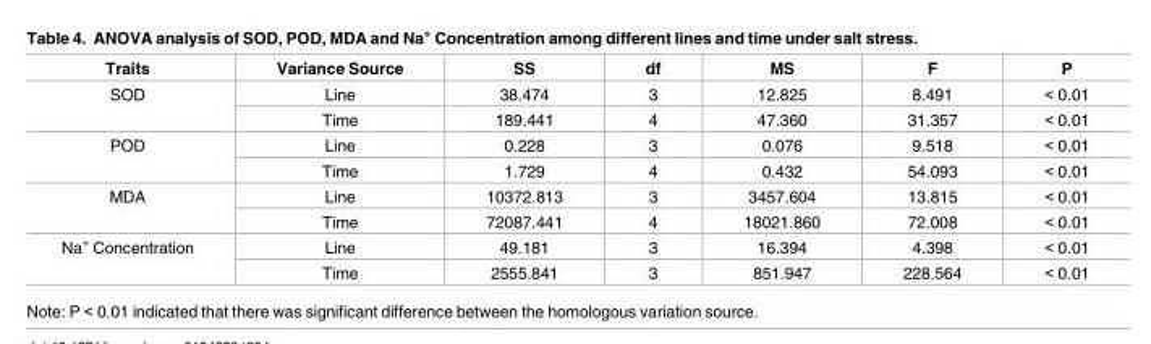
<table><thead><tr><td>Traits</td><td>Variance Source</td><td>SS</td><td>df</td><td>MS</td><td>F</td><td>P</td></tr></thead><tbody><tr><td rowspan="2">SOD</td><td>Line</td><td>38.474</td><td>3</td><td>12.825</td><td>8.491</td><td>&lt; 0.01</td></tr><tr><td>Time</td><td>189.441</td><td>4</td><td>47.360</td><td>31.357</td><td>&lt; 0.01</td></tr><tr><td rowspan="2">POD</td><td>Line</td><td>0.228</td><td>3</td><td>0.076</td><td>9.518</td><td>&lt; 0.01</td></tr><tr><td>Time</td><td>1.729</td><td>4</td><td>0.432</td><td>54.093</td><td>&lt; 0.01</td></tr><tr><td rowspan="2">MDA</td><td>Line</td><td>10372.813</td><td>3</td><td>3457.604</td><td>13.815</td><td>&lt; 0.01</td></tr><tr><td>Time</td><td>72087.441</td><td>4</td><td>18021.860</td><td>72.008</td><td>&lt; 0.01</td></tr><tr><td rowspan="2">Na<sup>+</sup> Concentration</td><td>Line</td><td>49.181</td><td>3</td><td>16.394</td><td>4.398</td><td>&lt; 0.01</td></tr><tr><td>Time</td><td>2555.841</td><td>3</td><td>851.947</td><td>228.564</td><td>&lt; 0.01</td></tr></tbody></table>